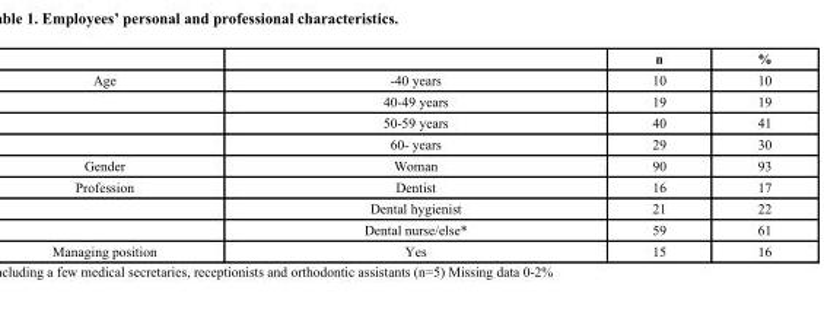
<table><thead><tr><td></td><td></td><td>n</td><td>%</td></tr></thead><tbody><tr><td rowspan="4">Age</td><td>-40 years</td><td>10</td><td>10</td></tr><tr><td>40-49 years</td><td>19</td><td>19</td></tr><tr><td>50-59 years</td><td>40</td><td>41</td></tr><tr><td>60- years</td><td>29</td><td>30</td></tr><tr><td>Gender</td><td>Woman</td><td>90</td><td>93</td></tr><tr><td rowspan="3">Profession</td><td>Dentist</td><td>16</td><td>17</td></tr><tr><td>Dental hygienist</td><td>21</td><td>22</td></tr><tr><td>Dental nurse/else*</td><td>59</td><td>61</td></tr><tr><td>Managing position</td><td>Yes</td><td>15</td><td>16</td></tr></tbody></table>